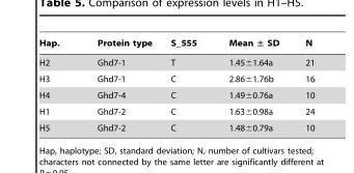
<table><thead><tr><td>Hap.</td><td>Protein type</td><td>S_555</td><td>Mean ± SD</td><td>N</td></tr></thead><tbody><tr><td>H2</td><td>Ghd7-1</td><td>T</td><td>1.45±1.64a</td><td>21</td></tr><tr><td>H3</td><td>Ghd7-1</td><td>C</td><td>2.86±1.76b</td><td>16</td></tr><tr><td>H4</td><td>Ghd7-4</td><td>C</td><td>1.49±0.76a</td><td>10</td></tr><tr><td>H1</td><td>Ghd7-2</td><td>C</td><td>1.63±0.98a</td><td>24</td></tr><tr><td>H5</td><td>Ghd7-2</td><td>C</td><td>1.48±0.79a</td><td>10</td></tr></tbody></table>